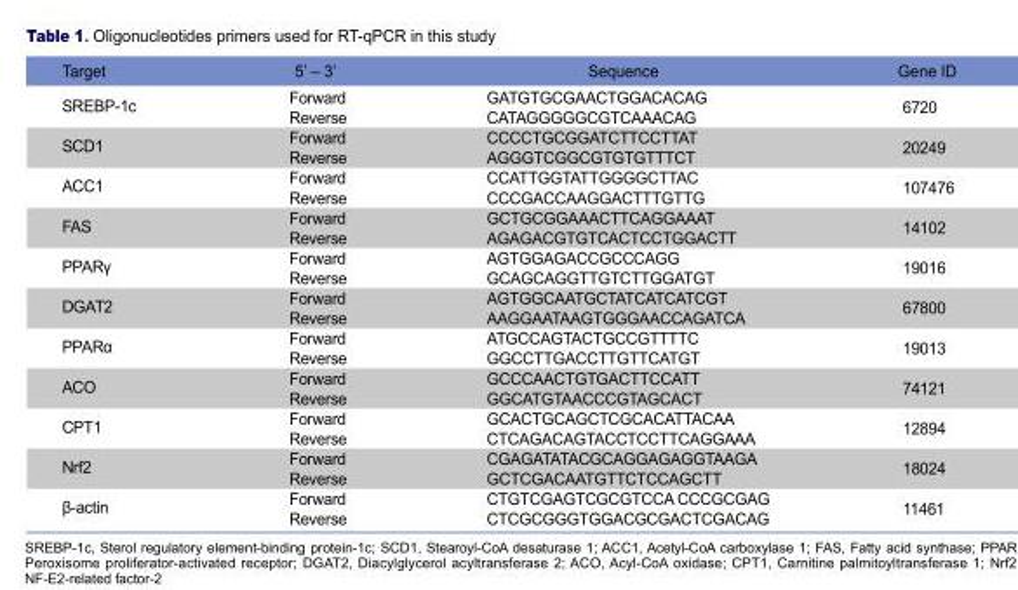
<table><thead><tr><td>Target</td><td>5’ – 3’</td><td>Sequence</td><td>Gene ID</td></tr></thead><tbody><tr><td rowspan="2">SREBP-1c</td><td>Forward</td><td>GATGTGCGAACTGGACACAG</td><td rowspan="2">6720</td></tr><tr><td>Reverse</td><td>CATAGGGGGCGTCAAACAG</td></tr><tr><td rowspan="2">SCD1</td><td>Forward</td><td>CCCCTGCGGATCTTCCTTAT</td><td rowspan="2">20249</td></tr><tr><td>Reverse</td><td>AGGGTCGGCGTGTGTTTCT</td></tr><tr><td rowspan="2">ACC1</td><td>Forward</td><td>CCATTGGTATTGGGGCTTAC</td><td rowspan="2">107476</td></tr><tr><td>Reverse</td><td>CCCGACCAAGGACTTTGTTG</td></tr><tr><td rowspan="2">FAS</td><td>Forward</td><td>GCTGCGGAAACTTCAGGAAAT</td><td rowspan="2">14102</td></tr><tr><td>Reverse</td><td>AGAGACGTGTCACTCCTGGACTT</td></tr><tr><td rowspan="2">PPARγ</td><td>Forward</td><td>AGTGGAGACCGCCCAGG</td><td rowspan="2">19016</td></tr><tr><td>Reverse</td><td>GCAGCAGGTTGTCTTGGATGT</td></tr><tr><td rowspan="2">DGAT2</td><td>Forward</td><td>AGTGGCAATGCTATCATCATCGT</td><td rowspan="2">67800</td></tr><tr><td>Reverse</td><td>AAGGAATAAGTGGGAACCAGATCA</td></tr><tr><td rowspan="2">PPARα</td><td>Forward</td><td>ATGCCAGTACTGCCGTTTTC</td><td rowspan="2">19013</td></tr><tr><td>Reverse</td><td>GGCCTTGACCTTGTTCATGT</td></tr><tr><td rowspan="2">ACO</td><td>Forward</td><td>GCCCAACTGTGACTTCCATT</td><td rowspan="2">74121</td></tr><tr><td>Reverse</td><td>GGCATGTAACCCGTAGCACT</td></tr><tr><td rowspan="2">CPT1</td><td>Forward</td><td>GCACTGCAGCTCGCACATTACAA</td><td rowspan="2">12894</td></tr><tr><td>Reverse</td><td>CTCAGACAGTACCTCCTTCAGGAAA</td></tr><tr><td rowspan="2">Nrf2</td><td>Forward</td><td>CGAGATATACGCAGGAGAGGTAAGA</td><td rowspan="2">18024</td></tr><tr><td>Reverse</td><td>GCTCGACAATGTTCTCCAGCTT</td></tr><tr><td rowspan="2">β-actin</td><td>Forward</td><td>CTGTCGAGTCGCGTCCA CCCGCGAG</td><td rowspan="2">11461</td></tr><tr><td>Reverse</td><td>CTCGCGGGTGGACGCGACTCGACAG</td></tr></tbody></table>